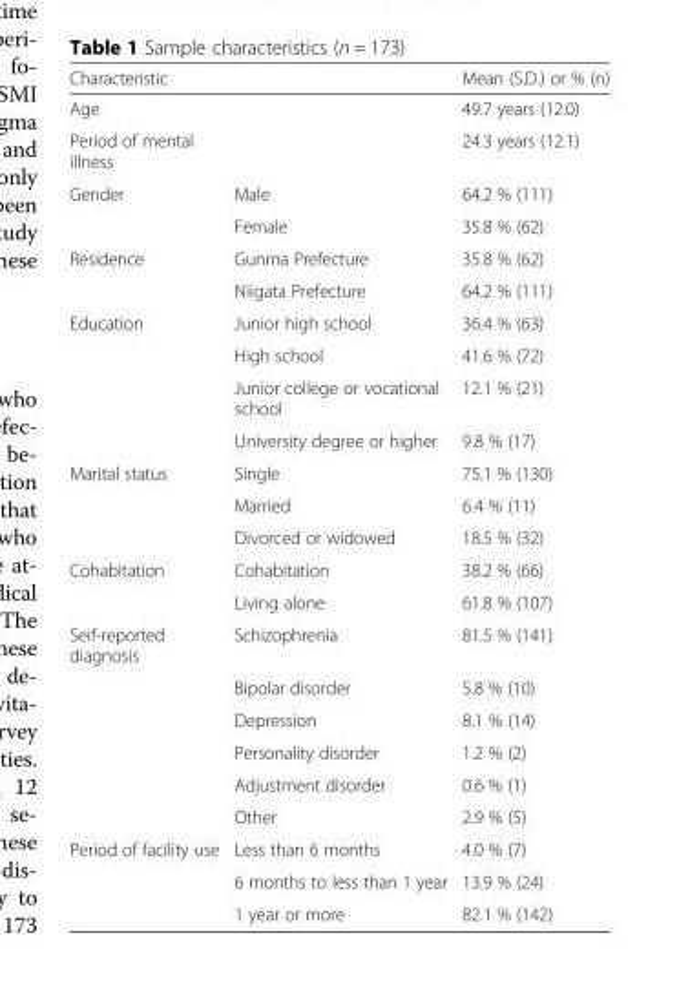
<table><thead><tr><td>Characteristic</td><td></td><td>Mean (S.D.) or % (n)</td></tr></thead><tbody><tr><td>Age</td><td></td><td>49.7 years (12.0)</td></tr><tr><td>Period of mental illness</td><td></td><td>24.3 years (12.1)</td></tr><tr><td rowspan="2">Gender</td><td>Male</td><td>64.2 % (111)</td></tr><tr><td>Female</td><td>35.8 % (62)</td></tr><tr><td rowspan="2">Residence</td><td>Gunma Prefecture</td><td>35.8 % (62)</td></tr><tr><td>Niigata Prefecture</td><td>64.2 % (111)</td></tr><tr><td rowspan="4">Education</td><td>Junior high school</td><td>36.4 % (63)</td></tr><tr><td>High school</td><td>41.6 % (72)</td></tr><tr><td>Junior college or vocational school</td><td>12.1 % (21)</td></tr><tr><td>University degree or higher</td><td>9.8 % (17)</td></tr><tr><td rowspan="3">Marital status</td><td>Single</td><td>75.1 % (130)</td></tr><tr><td>Married</td><td>6.4 % (11)</td></tr><tr><td>Divorced or widowed</td><td>18.5 % (32)</td></tr><tr><td rowspan="2">Cohabitation</td><td>Cohabitation</td><td>38.2 % (66)</td></tr><tr><td>Living alone</td><td>61.8 % (107)</td></tr><tr><td rowspan="6">Seif-reported diagnosis</td><td>Schizophrenia</td><td>81.5 % (141)</td></tr><tr><td>Bipolar disorder</td><td>5.8 % (10)</td></tr><tr><td>Depression</td><td>8.1 % (14)</td></tr><tr><td>Personality disorder</td><td>1.2 % (2)</td></tr><tr><td>Adjustment disorder</td><td>0.6 % (1)</td></tr><tr><td>Other</td><td>2.9 % (5)</td></tr><tr><td rowspan="3">Period of facility use</td><td>Less than 6 months</td><td>4.0 % (7)</td></tr><tr><td>6 months to less than 1 year</td><td>13.9 % (24)</td></tr><tr><td>1 year or more</td><td>82.1 % (142)</td></tr></tbody></table>